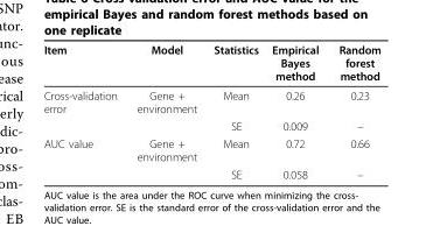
<table><thead><tr><td>Item</td><td>Model</td><td>Statistics</td><td>Empirical Bayes method</td><td>Random forest method</td></tr></thead><tbody><tr><td rowspan="2">Cross-validation error</td><td>Gene + environment</td><td>Mean</td><td>0.26</td><td>0.23</td></tr><tr><td></td><td>SE</td><td>0.009</td><td>–</td></tr><tr><td rowspan="2">AUC value</td><td>Gene + environment</td><td>Mean</td><td>0.72</td><td>0.66</td></tr><tr><td></td><td>SE</td><td>0.058</td><td>–</td></tr></tbody></table>